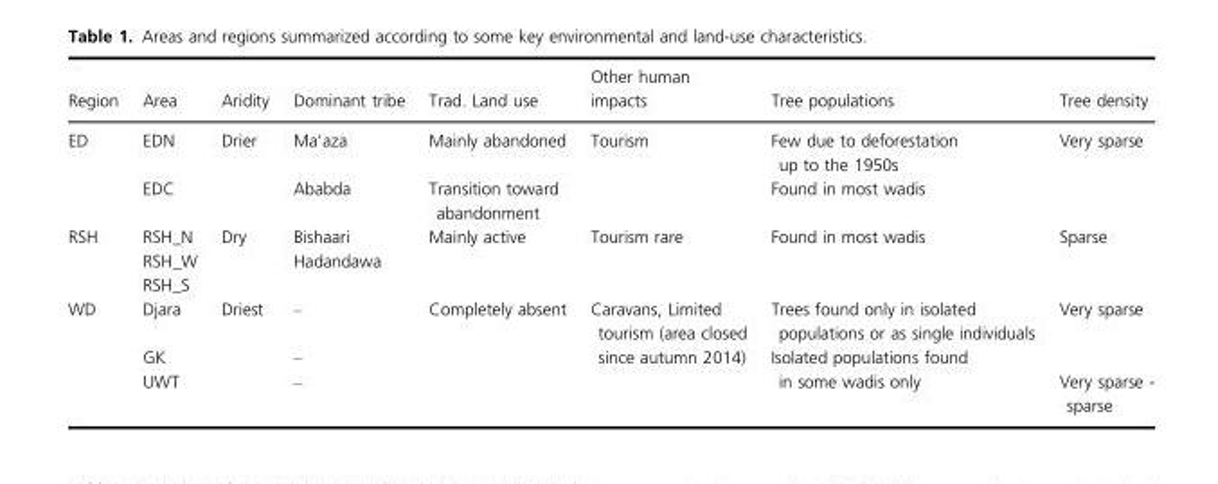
<table><thead><tr><td>Region</td><td>Area</td><td>Aridity</td><td>Dominant tribe</td><td>Trad. Land use</td><td>Other human impacts</td><td>Tree populations</td><td>Tree density</td></tr></thead><tbody><tr><td rowspan="2">ED</td><td>EDN</td><td rowspan="2">Drier</td><td>Ma’aza</td><td>Mainly abandoned</td><td rowspan="2">Tourism</td><td>Few due to deforestation up to the 1950s</td><td rowspan="2">Very sparse</td></tr><tr><td>EDC</td><td>Ababda</td><td>Transition toward abandonment</td><td>Found in most wadis</td></tr><tr><td rowspan="3">RSH</td><td>RSH_N</td><td rowspan="3">Dry</td><td>Bishaari</td><td rowspan="3">Mainly active</td><td rowspan="3">Tourism rare</td><td rowspan="3">Found in most wadis</td><td rowspan="3">Sparse</td></tr><tr><td>RSH_W</td><td rowspan="2">Hadandawa</td></tr><tr><td>RSH_S</td></tr><tr><td rowspan="3">WD</td><td>Djara</td><td rowspan="3">Driest</td><td>–</td><td rowspan="3">Completely absent</td><td rowspan="3">Caravans, Limited tourism (area closed since autumn 2014)</td><td>Trees found only in isolated populations or as single individuals</td><td rowspan="2">Very sparse</td></tr><tr><td>GK</td><td>–</td><td rowspan="2">Isolated populations found in some wadis only</td></tr><tr><td>UWT</td><td>–</td><td>Very sparse sparse</td></tr></tbody></table>